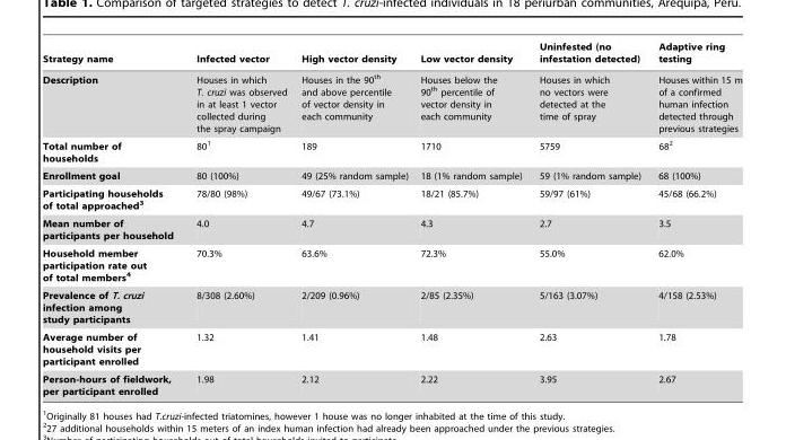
<table><thead><tr><td>Strategy name</td><td>Infected vector</td><td>High vector density</td><td>Low vector density</td><td>Uninfested (no infestation detected)</td><td>Adaptive ring testing</td></tr></thead><tbody><tr><td>Description</td><td>Houses in which T. cruzi was observed in at least 1 vector collected during the spray campaign</td><td>Houses in the 90<sup>th</sup> and above percentile of vector density in each community</td><td>Houses below the 90<sup>th</sup> percentile of vector density in each community</td><td>Houses in which no vectors were detected at the time of spray</td><td>Houses within 15 m of a confirmed human infection detected through previous strategies</td></tr><tr><td>Total number of households</td><td>80<sup>1</sup></td><td>189</td><td>1710</td><td>5759</td><td>68<sup>2</sup></td></tr><tr><td>Enrollment goal</td><td>80 (100%)</td><td>49 (25% random sample)</td><td>18 (1% random sample)</td><td>59 (1% random sample)</td><td>68 (100%)</td></tr><tr><td>Participating households of total approached3</td><td>78/80 (98%)</td><td>49/67 (73.1%)</td><td>18/21 (85.7%)</td><td>59/97 (61%)</td><td>45/68 (66.2%)</td></tr><tr><td>Mean number of participants per household</td><td>4.0</td><td>4.7</td><td>4.3</td><td>2.7</td><td>3.5</td></tr><tr><td>Household member participation rate out of total members4</td><td>70.3%</td><td>63.6%</td><td>72.3%</td><td>55.0%</td><td>62.0%</td></tr><tr><td>Prevalence of T. cruzi infection among study participants</td><td>8/308 (2.60%)</td><td>2/209 (0.96%)</td><td>2/85 (2.35%)</td><td>5/163 (3.07%)</td><td>4/158 (2.53%)</td></tr><tr><td>Average number of household visits per participant enrolled</td><td>1.32</td><td>1.41</td><td>1.48</td><td>2.63</td><td>1.78</td></tr><tr><td>Person-hours of fieldwork, per participant enrolled</td><td>1.98</td><td>2.12</td><td>2.22</td><td>3.95</td><td>2.67</td></tr></tbody></table>